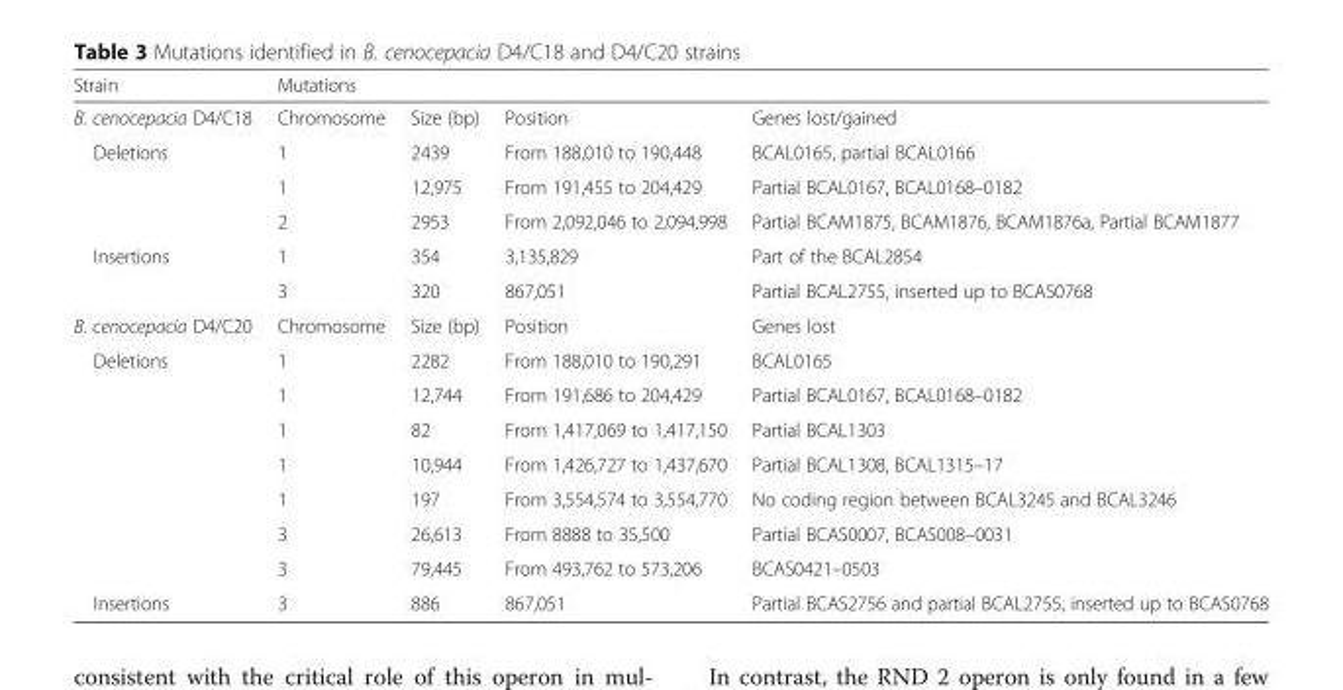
<table><thead><tr><td rowspan="2">Strain B. cenocepacia D4/C18</td><td colspan="4">Mutations</td></tr><tr><td>Chromosome</td><td>Size (bp)</td><td>Position</td><td>Genes lost/gained</td></tr></thead><tbody><tr><td rowspan="3">Deletions</td><td>1</td><td>2439</td><td>From 188,010 to 190,448</td><td>BCAL0165, partial BCAL0166</td></tr><tr><td>1</td><td>12,975</td><td>From 191,455 to 204,429</td><td>Partial BCAL0167, BCAL0168–0182</td></tr><tr><td>2</td><td>2953</td><td>From 2,092,046 to 2,094,998</td><td>Partial BCAM1875, BCAM1876, BCAM1876a, Partial BCAM1877</td></tr><tr><td rowspan="2">Insertions</td><td>1</td><td>354</td><td>3,135,829</td><td>Part of the BCAL2854</td></tr><tr><td>3</td><td>320</td><td>867,051</td><td>Partial BCAL2755, inserted up to BCAS0768</td></tr><tr><td>B. cenocepacia D4/C20</td><td>Chromosome</td><td>Size (bp)</td><td>Position</td><td>Genes lost</td></tr><tr><td rowspan="7">Deletions</td><td>1</td><td>2282</td><td>From 188,010 to 190,291</td><td>BCAL0165</td></tr><tr><td>1</td><td>12,744</td><td>From 191,686 to 204,429</td><td>Partial BCAL0167, BCAL0168–0182</td></tr><tr><td>1</td><td>82</td><td>From 1,417,069 to 1,417,150</td><td>Partial BCAL1303</td></tr><tr><td>1</td><td>10,944</td><td>From 1,426,727 to 1,437,670</td><td>Partial BCAL1308, BCAL1315–17</td></tr><tr><td>1</td><td>197</td><td>From 3,554,574 to 3,554,770</td><td>No coding region between BCAL3245 and BCAL3246</td></tr><tr><td>3</td><td>26,613</td><td>From 8888 to 35,500</td><td>Partial BCAS0007, BCAS008–0031</td></tr><tr><td>3</td><td>79,445</td><td>From 493,762 to 573,206</td><td>BCAS0421–0503</td></tr><tr><td>Insertions</td><td>3</td><td>886</td><td>867,051</td><td>Partial BCAS2756 and partial BCAL2755, inserted up to BCAS0768</td></tr></tbody></table>